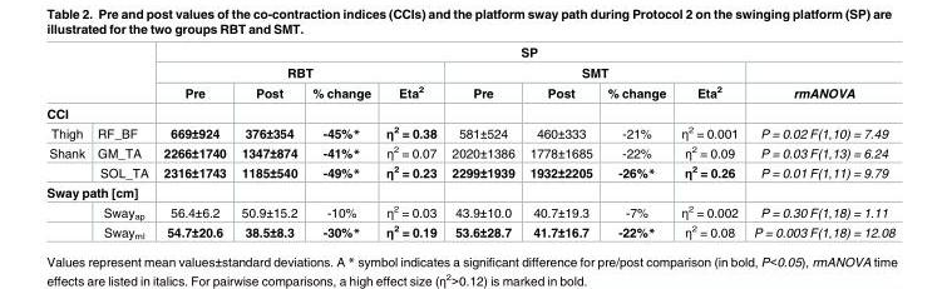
<table><thead><tr><td rowspan="3"></td><td rowspan="3"></td><td colspan="9">SP</td></tr><tr><td colspan="4">RBT</td><td colspan="4">SMT</td><td rowspan="2">rmANOVA</td></tr><tr><td>Pre</td><td>Post</td><td>% change</td><td>Eta<sup>2</sup></td><td>Pre</td><td>Post</td><td>% change</td><td>Eta<sup>2</sup></td></tr></thead><tbody><tr><td colspan="11">CCI</td></tr><tr><td>Thigh</td><td>RF_BF</td><td>669±924</td><td>376±354</td><td>-45%*</td><td>η<sup>2</sup> = 0.38</td><td>581±524</td><td>460±333</td><td>-21%</td><td>η<sup>2</sup> = 0.001</td><td>P = 0.02 F(1,10) = 7.49</td></tr><tr><td rowspan="2">Shank</td><td>GM_TA</td><td>2266±1740</td><td>1347±874</td><td>-41%*</td><td>η<sup>2</sup> = 0.07</td><td>2020±1386</td><td>1778±1685</td><td>-22%</td><td>η<sup>2</sup> = 0.09</td><td>P = 0.03 F(1,13) = 6.24</td></tr><tr><td>SOL_TA</td><td>2316±1743</td><td>1185±540</td><td>-49%*</td><td>η<sup>2</sup> = 0.23</td><td>2299±1939</td><td>1932±2205</td><td>-26%*</td><td>η<sup>2</sup> = 0.26</td><td>P = 0.01 F(1,11) = 9.79</td></tr><tr><td colspan="11">Sway path [cm]</td></tr><tr><td></td><td>Sway<sub>ap</sub></td><td>56.4±6.2</td><td>50.9±15.2</td><td>-10%</td><td>η<sup>2</sup> = 0.03</td><td>43.9±10.0</td><td>40.7±19.3</td><td>-7%</td><td>η<sup>2</sup> = 0.002</td><td>P = 0.30 F(1,18) = 1.11</td></tr><tr><td></td><td>Sway<sub>ml</sub></td><td>54.7±20.6</td><td>38.5±8.3</td><td>-30%*</td><td>η<sup>2</sup> = 0.19</td><td>53.6±28.7</td><td>41.7±16.7</td><td>-22%*</td><td>η<sup>2</sup> = 0.08</td><td>P = 0.003 F(1,18) = 12.08</td></tr></tbody></table>